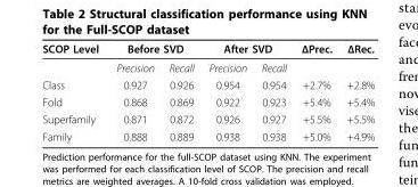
<table><thead><tr><td rowspan="2">SCOP Level</td><td colspan="2">Before SVD</td><td colspan="2">After SVD</td><td rowspan="2">ΔPrec.</td><td rowspan="2">ΔRec.</td></tr><tr><td>Precision</td><td>Recall</td><td>Precision</td><td>Recall</td></tr></thead><tbody><tr><td>Class</td><td>0.927</td><td>0.926</td><td>0.954</td><td>0.954</td><td>+2.7%</td><td>+2.8%</td></tr><tr><td>Fold</td><td>0.868</td><td>0.869</td><td>0.922</td><td>0.923</td><td>+5.4%</td><td>+5.4%</td></tr><tr><td>Superfamily</td><td>0.871</td><td>0.872</td><td>0.926</td><td>0.927</td><td>+5.5%</td><td>+5.5%</td></tr><tr><td>Family</td><td>0.888</td><td>0.889</td><td>0.938</td><td>0.938</td><td>+5.0%</td><td>+4.9%</td></tr></tbody></table>